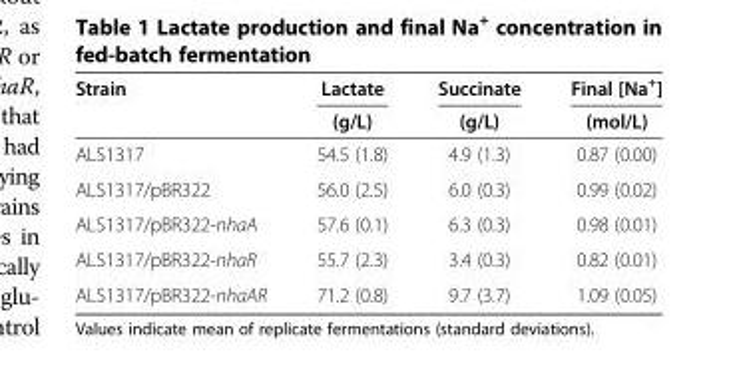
<table><thead><tr><td rowspan="2">Strain</td><td rowspan="2">Lactate (g/L)</td><td rowspan="2">Succinate (g/L)</td><td rowspan="2">Final [Na<sup>+</sup>] (mol/L)</td></tr><tr></tr></thead><tbody><tr><td>ALS1317</td><td>54.5 (1.8)</td><td>4.9 (1.3)</td><td>0.87 (0.00)</td></tr><tr><td>ALS1317/pBR322</td><td>56.0 (2.5)</td><td>6.0 (0.3)</td><td>0.99 (0.02)</td></tr><tr><td>ALS1317/pBR322-nhaA</td><td>57.6 (0.1)</td><td>6.3 (0.3)</td><td>0.98 (0.01)</td></tr><tr><td>ALS1317/pBR322-nhaR</td><td>55.7 (2.3)</td><td>3.4 (0.3)</td><td>0.82 (0.01)</td></tr><tr><td>ALS1317/pBR322-nhaAR</td><td>71.2 (0.8)</td><td>9.7 (3.7)</td><td>1.09 (0.05)</td></tr></tbody></table>